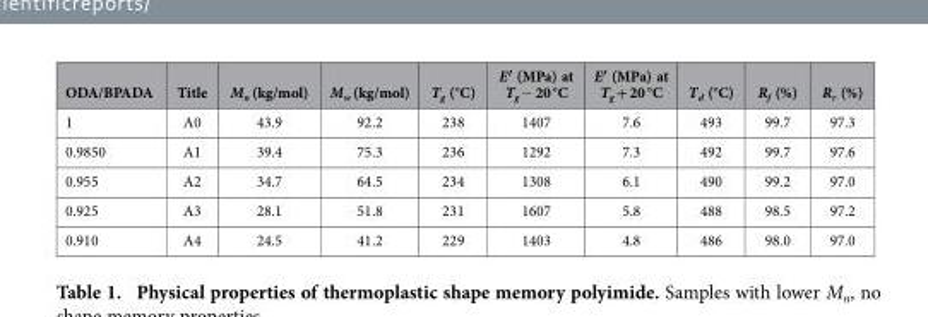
<table><thead><tr><td>ODA/BPADA</td><td>Title</td><td>M<sub>n</sub> (kg/mol)</td><td>M<sub>w</sub> (kg/mol)</td><td>T<sub>g</sub> (°C)</td><td>E′ (MPa) at T<sub>g</sub> − 20 °C</td><td>E′ (MPa) at T<sub>g</sub> + 20 °C</td><td>T<sub>d</sub> (°C)</td><td>R<sub>f</sub> (%)</td><td>R<sub>r</sub> (%)</td></tr></thead><tbody><tr><td>1</td><td>A0</td><td>43.9</td><td>92.2</td><td>238</td><td>1407</td><td>7.6</td><td>493</td><td>99.7</td><td>97.3</td></tr><tr><td>0.9850</td><td>A1</td><td>39.4</td><td>75.3</td><td>236</td><td>1292</td><td>7.3</td><td>492</td><td>99.7</td><td>97.6</td></tr><tr><td>0.955</td><td>A2</td><td>34.7</td><td>64.5</td><td>234</td><td>1308</td><td>6.1</td><td>490</td><td>99.2</td><td>97.0</td></tr><tr><td>0.925</td><td>A3</td><td>28.1</td><td>51.8</td><td>231</td><td>1607</td><td>5.8</td><td>488</td><td>98.5</td><td>97.2</td></tr><tr><td>0.910</td><td>A4</td><td>24.5</td><td>41.2</td><td>229</td><td>1403</td><td>4.8</td><td>486</td><td>98.0</td><td>97.0</td></tr></tbody></table>